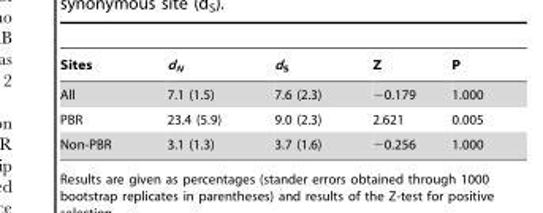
<table><thead><tr><td>Sites</td><td>d<sub>N</sub></td><td>d<sub>S</sub></td><td>Z</td><td>P</td></tr></thead><tbody><tr><td>All</td><td>7.1 (1.5)</td><td>7.6 (2.3)</td><td>−0.179</td><td>1.000</td></tr><tr><td>PBR</td><td>23.4 (5.9)</td><td>9.0 (2.3)</td><td>2.621</td><td>0.005</td></tr><tr><td>Non-PBR</td><td>3.1 (1.3)</td><td>3.7 (1.6)</td><td>−0.256</td><td>1.000</td></tr></tbody></table>